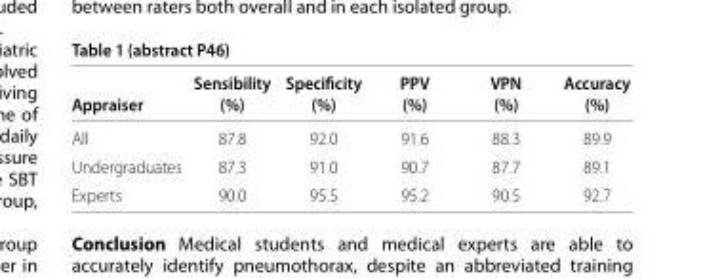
<table><thead><tr><td>Appraiser</td><td>Sensibility (%)</td><td>Specifi city (%)</td><td>PPV (%)</td><td>VPN (%)</td><td>Accuracy (%)</td></tr></thead><tbody><tr><td>All</td><td>87.8</td><td>92.0</td><td>91.6</td><td>88.3</td><td>89.9</td></tr><tr><td>Undergraduates</td><td>87.3</td><td>91.0</td><td>90.7</td><td>87.7</td><td>89.1</td></tr><tr><td>Experts</td><td>90.0</td><td>95.5</td><td>95.2</td><td>90.5</td><td>92.7</td></tr></tbody></table>